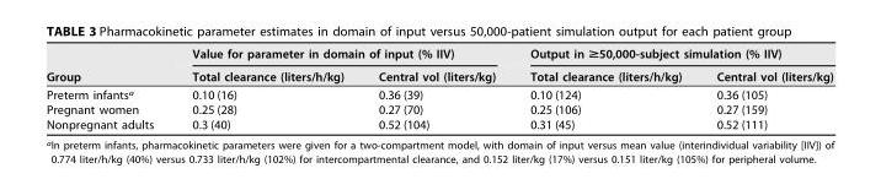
<table><thead><tr><td rowspan="2">Group</td><td colspan="2">Value for parameter in domain of input (% IIV)</td><td colspan="2">Output in &gt;50,000-subject simulation (% IIV)</td></tr><tr><td>Total clearance (liters/h/kg)</td><td>Central vol (liters/kg)</td><td>Total clearance (liters/h/kg)</td><td>Central vol (liters/kg)</td></tr></thead><tbody><tr><td>Preterm infants<sup>a</sup></td><td>0.10 (16)</td><td>0.36 (39)</td><td>0.10 (124)</td><td>0.36 (105)</td></tr><tr><td>Pregnant women</td><td>0.25 (28)</td><td>0.27 (70)</td><td>0.25 (106)</td><td>0.27 (159)</td></tr><tr><td>Nonpregnant adults</td><td>0.3 (40)</td><td>0.52 (104)</td><td>0.31 (45)</td><td>0.52 (111)</td></tr></tbody></table>